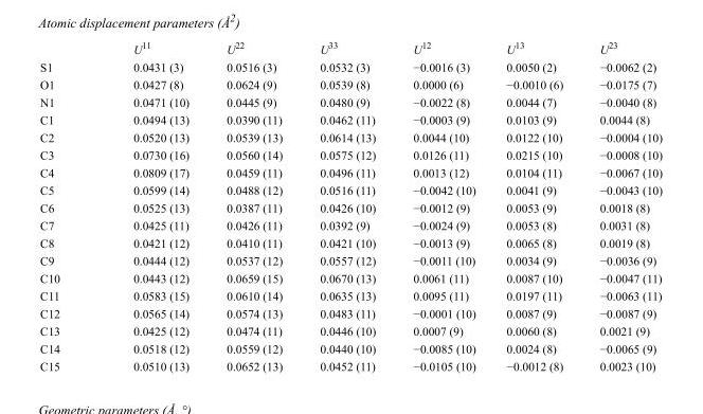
<table><thead><tr><td></td><td>U<sup>11</sup></td><td>U<sup>22</sup></td><td>U<sup>33</sup></td><td>U<sup>12</sup></td><td>U<sup>13</sup></td><td>U<sup>23</sup></td></tr></thead><tbody><tr><td>S1</td><td>0.0431 (3)</td><td>0.0516 (3)</td><td>0.0532 (3)</td><td>−0.0016 (3)</td><td>0.0050 (2)</td><td>−0.0062 (2)</td></tr><tr><td>O1</td><td>0.0427 (8)</td><td>0.0624 (9)</td><td>0.0539 (8)</td><td>0.0000 (6)</td><td>−0.0010 (6)</td><td>−0.0175 (7)</td></tr><tr><td>N1</td><td>0.0471 (10)</td><td>0.0445 (9)</td><td>0.0480 (9)</td><td>−0.0022 (8)</td><td>0.0044 (7)</td><td>−0.0040 (8)</td></tr><tr><td>C1</td><td>0.0494 (13)</td><td>0.0390 (11)</td><td>0.0462 (11)</td><td>−0.0003 (9)</td><td>0.0103 (9)</td><td>0.0044 (8)</td></tr><tr><td>C2</td><td>0.0520 (13)</td><td>0.0539 (13)</td><td>0.0614 (13)</td><td>0.0044 (10)</td><td>0.0122 (10)</td><td>−0.0004 (10)</td></tr><tr><td>C3</td><td>0.0730 (16)</td><td>0.0560 (14)</td><td>0.0575 (12)</td><td>0.0126 (11)</td><td>0.0215 (10)</td><td>−0.0008 (10)</td></tr><tr><td>C4</td><td>0.0809 (17)</td><td>0.0459 (11)</td><td>0.0496 (11)</td><td>0.0013 (12)</td><td>0.0104 (11)</td><td>−0.0067 (10)</td></tr><tr><td>C5</td><td>0.0599 (14)</td><td>0.0488 (12)</td><td>0.0516 (11)</td><td>−0.0042 (10)</td><td>0.0041 (9)</td><td>−0.0043 (10)</td></tr><tr><td>C6</td><td>0.0525 (13)</td><td>0.0387 (11)</td><td>0.0426 (10)</td><td>−0.0012 (9)</td><td>0.0053 (9)</td><td>0.0018 (8)</td></tr><tr><td>C7</td><td>0.0425 (11)</td><td>0.0426 (11)</td><td>0.0392 (9)</td><td>−0.0024 (9)</td><td>0.0053 (8)</td><td>0.0031 (8)</td></tr><tr><td>C8</td><td>0.0421 (12)</td><td>0.0410 (11)</td><td>0.0421 (10)</td><td>−0.0013 (9)</td><td>0.0065 (8)</td><td>0.0019 (8)</td></tr><tr><td>C9</td><td>0.0444 (12)</td><td>0.0537 (12)</td><td>0.0557 (12)</td><td>−0.0011 (10)</td><td>0.0034 (9)</td><td>−0.0036 (9)</td></tr><tr><td>C10</td><td>0.0443 (12)</td><td>0.0659 (15)</td><td>0.0670 (13)</td><td>0.0061 (11)</td><td>0.0087 (10)</td><td>−0.0047 (11)</td></tr><tr><td>C11</td><td>0.0583 (15)</td><td>0.0610 (14)</td><td>0.0635 (13)</td><td>0.0095 (11)</td><td>0.0197 (11)</td><td>−0.0063 (11)</td></tr><tr><td>C12</td><td>0.0565 (14)</td><td>0.0574 (13)</td><td>0.0483 (11)</td><td>−0.0001 (10)</td><td>0.0087 (9)</td><td>−0.0087 (9)</td></tr><tr><td>C13</td><td>0.0425 (12)</td><td>0.0474 (11)</td><td>0.0446 (10)</td><td>0.0007 (9)</td><td>0.0060 (8)</td><td>0.0021 (9)</td></tr><tr><td>C14</td><td>0.0518 (12)</td><td>0.0559 (12)</td><td>0.0440 (10)</td><td>−0.0085 (10)</td><td>0.0024 (8)</td><td>−0.0065 (9)</td></tr><tr><td>C15</td><td>0.0510 (13)</td><td>0.0652 (13)</td><td>0.0452 (11)</td><td>−0.0105 (10)</td><td>−0.0012 (8)</td><td>0.0023 (10)</td></tr></tbody></table>